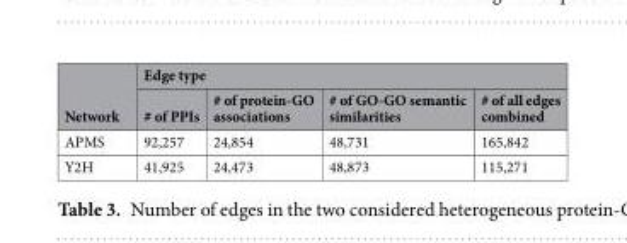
<table><thead><tr><td rowspan="2">Network</td><td colspan="4">Edge type</td></tr><tr><td># of PPIs</td><td># of protein-GO associations</td><td># of GO-GO semantic similarities</td><td># of all edges combined</td></tr></thead><tbody><tr><td>APMS</td><td>92,257</td><td>24,854</td><td>48,731</td><td>165,842</td></tr><tr><td>Y2H</td><td>41,925</td><td>24,473</td><td>48,873</td><td>115,271</td></tr></tbody></table>